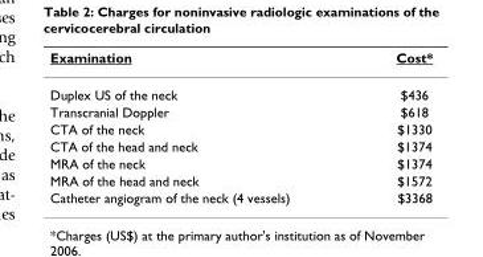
<table><thead><tr><td>Examination</td><td>Cost*</td></tr></thead><tbody><tr><td>Duplex US of the neck</td><td>$436</td></tr><tr><td>Transcranial Doppler</td><td>$618</td></tr><tr><td>CTA of the neck</td><td>$1330</td></tr><tr><td>CTA of the head and neck</td><td>$1374</td></tr><tr><td>MRA of the neck</td><td>$1374</td></tr><tr><td>MRA of the head and neck</td><td>$1572</td></tr><tr><td>Catheter angiogram of the neck (4 vessels)</td><td>$3368</td></tr></tbody></table>